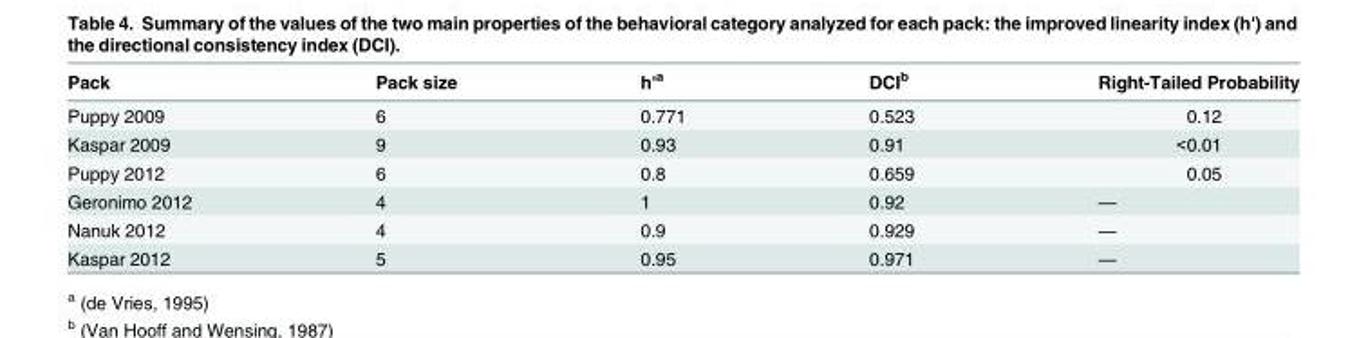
<table><thead><tr><td>Pack</td><td>Pack size</td><td>h&#x27;<sup>a</sup></td><td>DCI<sup>b</sup></td><td>Right-Tailed Probability</td></tr></thead><tbody><tr><td>Puppy 2009</td><td>6</td><td>0.771</td><td>0.523</td><td>0.12</td></tr><tr><td>Kaspar 2009</td><td>9</td><td>0.93</td><td>0.91</td><td>&lt;0.01</td></tr><tr><td>Puppy 2012</td><td>6</td><td>0.8</td><td>0.659</td><td>0.05</td></tr><tr><td>Geronimo 2012</td><td>4</td><td>1</td><td>0.92</td><td>—</td></tr><tr><td>Nanuk 2012</td><td>4</td><td>0.9</td><td>0.929</td><td>—</td></tr><tr><td>Kaspar 2012</td><td>5</td><td>0.95</td><td>0.971</td><td>—</td></tr></tbody></table>